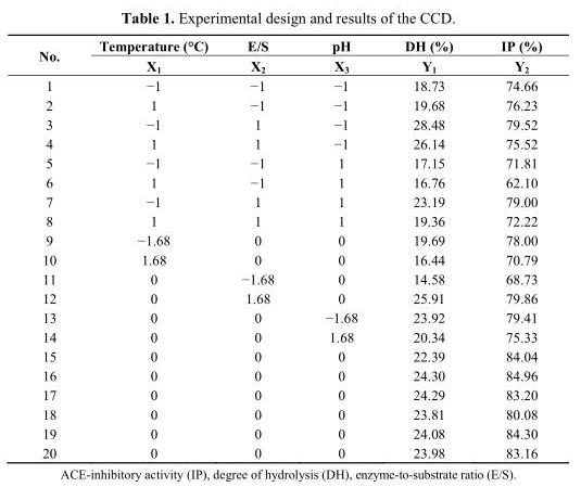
<table><thead><tr><td rowspan="2">No.</td><td rowspan="2">Temperature (°C) X<sub>1</sub></td><td rowspan="2">E/S X<sub>2</sub></td><td rowspan="2">pH X<sub>3</sub></td><td rowspan="2">DH (%) Y<sub>1</sub></td><td rowspan="2">IP (%) Y<sub>2</sub></td></tr><tr></tr></thead><tbody><tr><td>1</td><td>−1</td><td>−1</td><td>−1</td><td>18.73</td><td>74.66</td></tr><tr><td>2</td><td>1</td><td>−1</td><td>−1</td><td>19.68</td><td>76.23</td></tr><tr><td>3</td><td>−1</td><td>1</td><td>−1</td><td>28.48</td><td>79.52</td></tr><tr><td>4</td><td>1</td><td>1</td><td>−1</td><td>26.14</td><td>75.52</td></tr><tr><td>5</td><td>−1</td><td>−1</td><td>1</td><td>17.15</td><td>71.81</td></tr><tr><td>6</td><td>1</td><td>−1</td><td>1</td><td>16.76</td><td>62.10</td></tr><tr><td>7</td><td>−1</td><td>1</td><td>1</td><td>23.19</td><td>79.00</td></tr><tr><td>8</td><td>1</td><td>1</td><td>1</td><td>19.36</td><td>72.22</td></tr><tr><td>9</td><td>−1.68</td><td>0</td><td>0</td><td>19.69</td><td>78.00</td></tr><tr><td>10</td><td>1.68</td><td>0</td><td>0</td><td>16.44</td><td>70.79</td></tr><tr><td>11</td><td>0</td><td>−1.68</td><td>0</td><td>14.58</td><td>68.73</td></tr><tr><td>12</td><td>0</td><td>1.68</td><td>0</td><td>25.91</td><td>79.86</td></tr><tr><td>13</td><td>0</td><td>0</td><td>−1.68</td><td>23.92</td><td>79.41</td></tr><tr><td>14</td><td>0</td><td>0</td><td>1.68</td><td>20.34</td><td>75.33</td></tr><tr><td>15</td><td>0</td><td>0</td><td>0</td><td>22.39</td><td>84.04</td></tr><tr><td>16</td><td>0</td><td>0</td><td>0</td><td>24.30</td><td>84.96</td></tr><tr><td>17</td><td>0</td><td>0</td><td>0</td><td>24.29</td><td>83.20</td></tr><tr><td>18</td><td>0</td><td>0</td><td>0</td><td>23.81</td><td>80.08</td></tr><tr><td>19</td><td>0</td><td>0</td><td>0</td><td>24.08</td><td>84.30</td></tr><tr><td>20</td><td>0</td><td>0</td><td>0</td><td>23.98</td><td>83.16</td></tr></tbody></table>